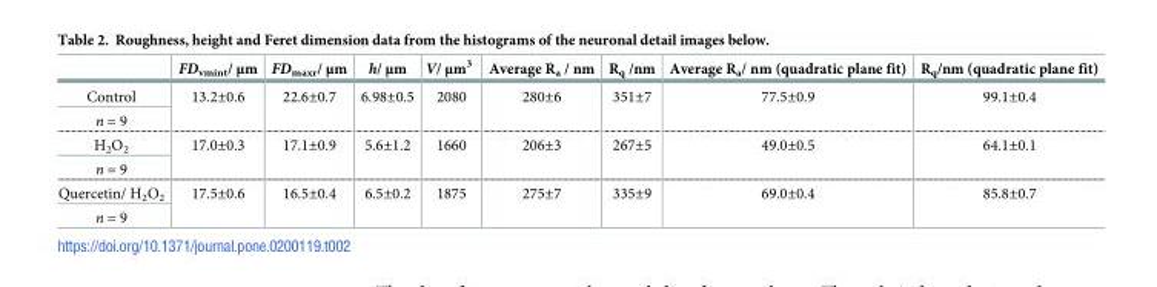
<table><thead><tr><td></td><td>FD<sub>vmint</sub>/ μm</td><td>FD<sub>maxr</sub>/ μm</td><td>h/ μm</td><td>V/ μm<sup>3</sup></td><td>Average R<sub>a</sub> / nm</td><td>R<sub>q</sub> /nm</td><td>Average R<sub>a</sub>/ nm (quadratic plane fit)</td><td>R<sub>q</sub>/nm (quadratic plane fit)</td></tr></thead><tbody><tr><td>Control</td><td rowspan="2">13.2±0.6</td><td rowspan="2">22.6±0.7</td><td rowspan="2">6.98±0.5</td><td rowspan="2">2080</td><td rowspan="2">280±6</td><td rowspan="2">351±7</td><td rowspan="2">77.5±0.9</td><td rowspan="2">99.1±0.4</td></tr><tr><td>n = 9</td></tr><tr><td>H<sub>2</sub>O<sub>2</sub></td><td rowspan="2">17.0±0.3</td><td rowspan="2">17.1±0.9</td><td rowspan="2">5.6±1.2</td><td rowspan="2">1660</td><td rowspan="2">206±3</td><td rowspan="2">267±5</td><td rowspan="2">49.0±0.5</td><td rowspan="2">64.1±0.1</td></tr><tr><td>n = 9</td></tr><tr><td>Quercetin/ H<sub>2</sub>O<sub>2</sub></td><td rowspan="2">17.5±0.6</td><td rowspan="2">16.5±0.4</td><td rowspan="2">6.5±0.2</td><td rowspan="2">1875</td><td rowspan="2">275±7</td><td rowspan="2">335±9</td><td rowspan="2">69.0±0.4</td><td rowspan="2">85.8±0.7</td></tr><tr><td>n = 9</td></tr></tbody></table>